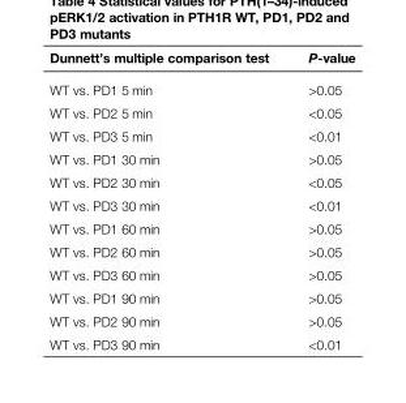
<table><thead><tr><td>Dunnett’s multiple comparison test</td><td>P-value</td></tr></thead><tbody><tr><td>WT vs. PD1 5 min</td><td>&gt;0.05</td></tr><tr><td>WT vs. PD2 5 min</td><td>&lt;0.05</td></tr><tr><td>WT vs. PD3 5 min</td><td>&lt;0.01</td></tr><tr><td>WT vs. PD1 30 min</td><td>&gt;0.05</td></tr><tr><td>WT vs. PD2 30 min</td><td>&lt;0.05</td></tr><tr><td>WT vs. PD3 30 min</td><td>&lt;0.01</td></tr><tr><td>WT vs. PD1 60 min</td><td>&gt;0.05</td></tr><tr><td>WT vs. PD2 60 min</td><td>&gt;0.05</td></tr><tr><td>WT vs. PD3 60 min</td><td>&gt;0.05</td></tr><tr><td>WT vs. PD1 90 min</td><td>&gt;0.05</td></tr><tr><td>WT vs. PD2 90 min</td><td>&gt;0.05</td></tr><tr><td>WT vs. PD3 90 min</td><td>&lt;0.01</td></tr></tbody></table>